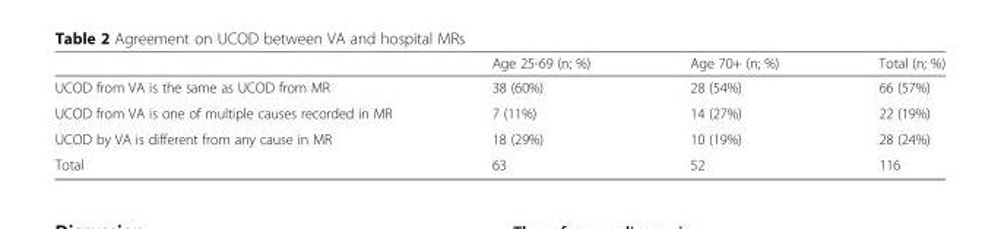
<table><thead><tr><td></td><td>Age 25-69 (n; %)</td><td>Age 70+ (n; %)</td><td>Total (n; %)</td></tr></thead><tbody><tr><td>UCOD from VA is the same as UCOD from MR</td><td>38 (60%)</td><td>28 (54%)</td><td>66 (57%)</td></tr><tr><td>UCOD from VA is one of multiple causes recorded in MR</td><td>7 (11%)</td><td>14 (27%)</td><td>22 (19%)</td></tr><tr><td>UCOD by VA is different from any cause in MR</td><td>18 (29%)</td><td>10 (19%)</td><td>28 (24%)</td></tr><tr><td>Total</td><td>63</td><td>52</td><td>116</td></tr></tbody></table>